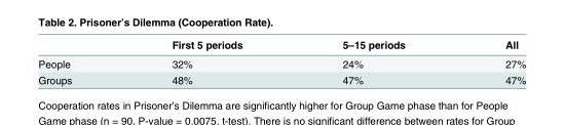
<table><thead><tr><td></td><td>First 5 periods</td><td>5–15 periods</td><td>All</td></tr></thead><tbody><tr><td>People</td><td>32%</td><td>24%</td><td>27%</td></tr><tr><td>Groups</td><td>48%</td><td>47%</td><td>47%</td></tr></tbody></table>